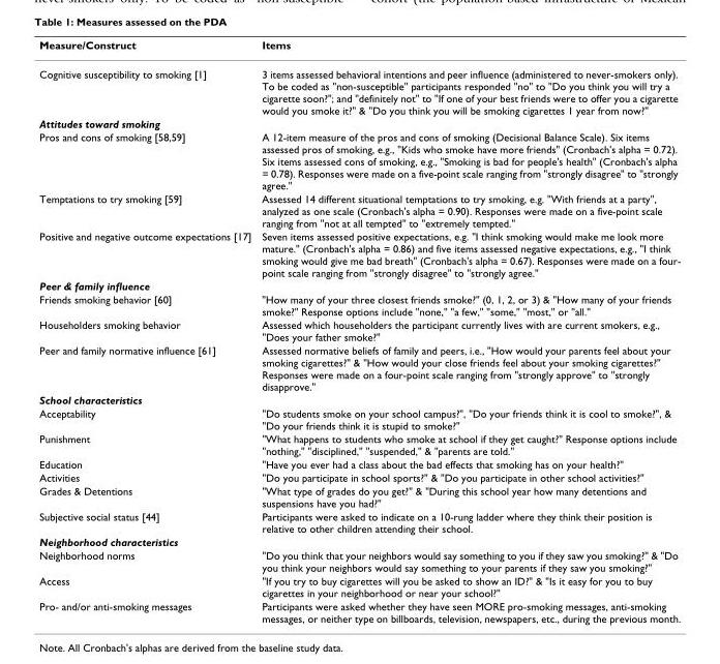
<table><thead><tr><td>Measure/Construct</td><td>Items</td></tr></thead><tbody><tr><td>Cognitive susceptibility to smoking [1]</td><td>3 items assessed behavioral intentions and peer influence (administered to never-smokers only). To be coded as &quot;non-susceptible&quot; participants responded &quot;no&quot; to &quot;Do you think you will try a cigarette soon?&quot;; and &quot;definitely not&quot; to &quot;If one of your best friends were to offer you a cigarette would you smoke it?&quot; &amp; &quot;Do you think you will be smoking cigarettes 1 year from now?&quot;</td></tr><tr><td colspan="2">Attitudes toward smoking</td></tr><tr><td>Pros and cons of smoking [58,59]</td><td>A 12-item measure of the pros and cons of smoking (Decisional Balance Scale). Six items assessed pros of smoking, e.g., &quot;Kids who smoke have more friends&quot; (Cronbach&#x27;s alpha = 0.72). Six items assessed cons of smoking, e.g., &quot;Smoking is bad for people&#x27;s health&quot; (Cronbach&#x27;s alpha = 0.78). Responses were made on a five-point scale ranging from &quot;strongly disagree&quot; to &quot;strongly agree.&quot;</td></tr><tr><td>Temptations to try smoking [59]</td><td>Assessed 14 different situational temptations to try smoking, e.g. &quot;With friends at a party&quot;, analyzed as one scale (Cronbach&#x27;s alpha = 0.90). Responses were made on a five-point scale ranging from &quot;not at all tempted&quot; to &quot;extremely tempted.&quot;</td></tr><tr><td>Positive and negative outcome expectations [17]</td><td>Seven items assessed positive expectations, e.g. &quot;I think smoking would make me look more mature.&quot; (Cronbach&#x27;s alpha = 0.86) and five items assessed negative expectations, e.g., &quot;I think smoking would give me bad breath&quot; (Cronbach&#x27;s alpha = 0.67). Responses were made on a four- point scale ranging from &quot;strongly disagree&quot; to &quot;strongly agree.&quot;</td></tr><tr><td colspan="2">Peer &amp; family influence</td></tr><tr><td>Friends smoking behavior [60]</td><td>&quot;How many of your three closest friends smoke?&quot; (0, 1, 2, or 3) &amp; &quot;How many of your friends smoke?&quot; Response options include &quot;none,&quot; &quot;a few,&quot; &quot;some,&quot; &quot;most,&quot; or &quot;all.&quot;</td></tr><tr><td>Householders smoking behavior</td><td>Assessed which householders the participant currently lives with are current smokers, e.g., &quot;Does your father smoke?&quot;</td></tr><tr><td>Peer and family normative influence [61]</td><td>Assessed normative beliefs of family and peers, i.e., &quot;How would your parents feel about your smoking cigarettes?&quot; &amp; &quot;How would your close friends feel about your smoking cigarettes?&quot; Responses were made on a four-point scale ranging from &quot;strongly approve&quot; to &quot;strongly disapprove.&quot;</td></tr><tr><td colspan="2">School characteristics</td></tr><tr><td>Acceptability</td><td>&quot;Do students smoke on your school campus?&quot;, &quot;Do your friends think it is cool to smoke?&quot;, &amp; &quot;Do your friends think it is stupid to smoke?&quot;</td></tr><tr><td>Punishment</td><td>&quot;What happens to students who smoke at school if they get caught?&quot; Response options include &quot;nothing,&quot; &quot;disciplined,&quot; &quot;suspended,&quot; &amp; &quot;parents are told.&quot;</td></tr><tr><td>Education</td><td>&quot;Have you ever had a class about the bad effects that smoking has on your health?&quot;</td></tr><tr><td>Activities</td><td>&quot;Do you participate in school sports?&quot; &amp; &quot;Do you participate in other school activities?&quot;</td></tr><tr><td>Grades &amp; Detentions</td><td>&quot;What type of grades do you get?&quot; &amp; &quot;During this school year how many detentions and suspensions have you had?&quot;</td></tr><tr><td>Subjective social status [44]</td><td>Participants were asked to indicate on a 10-rung ladder where they think their position is relative to other children attending their school.</td></tr><tr><td colspan="2">Neighborhood characteristics</td></tr><tr><td>Neighborhood norms</td><td>&quot;Do you think that your neighbors would say something to you if they saw you smoking?&quot; &amp; &quot;Do you think your neighbors would say something to your parents if they saw you smoking?&quot;</td></tr><tr><td>Access</td><td>&quot;If you try to buy cigarettes will you be asked to show an ID?&quot; &amp; &quot;Is it easy for you to buy cigarettes in your neighborhood or near your school?&quot;</td></tr><tr><td>Pro- and/or anti-smoking messages</td><td>Participants were asked whether they have seen MORE pro-smoking messages, anti-smoking messages, or neither type on billboards, television, newspapers, etc., during the previous month.</td></tr></tbody></table>